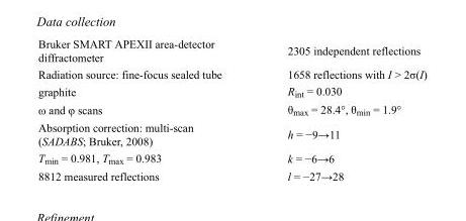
<table><tbody><tr><td>Bruker SMART APEXII area-detector diffractometer</td><td>2305 independent reflections</td></tr><tr><td>Radiation source: fine-focus sealed tube</td><td>1658 reflections with I &gt; 2σ(I)</td></tr><tr><td>graphite</td><td>R<sub>int</sub> = 0.030</td></tr><tr><td>ω and φ scans</td><td>θ<sub>max</sub> = 28.4°, θ<sub>min</sub> = 1.9°</td></tr><tr><td>Absorption correction: multi-scan (SADABS; Bruker, 2008)</td><td>h = −9→11</td></tr><tr><td>T<sub>min</sub> = 0.981, T<sub>max</sub> = 0.983</td><td>k = −6→6</td></tr><tr><td>8812 measured reflections</td><td>l = −27→28</td></tr></tbody></table>